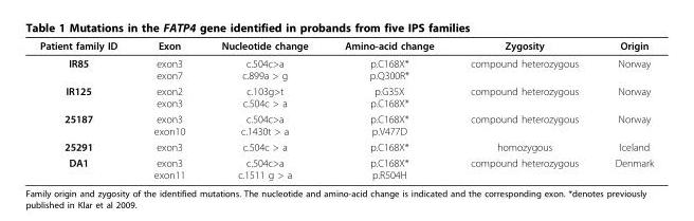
<table><thead><tr><td>Patient family ID</td><td>Exon</td><td>Nucleotide change</td><td>Amino-acid change</td><td>Zygosity</td><td>Origin</td></tr></thead><tbody><tr><td>IR85</td><td>exon3 exon7</td><td>c.504c&gt;a c.899a &gt; g</td><td>p.C168X* p.Q300R*</td><td>compound heterozygous</td><td>Norway</td></tr><tr><td>IR125</td><td>exon2 exon3</td><td>c.103g&gt;t c.504c &gt; a</td><td>p.G35X p.C168X*</td><td>compound heterozygous</td><td>Norway</td></tr><tr><td>25187</td><td>exon3 exon10</td><td>c.504c&gt;a c.1430t &gt; a</td><td>p.C168X* p.V477D</td><td>compound heterozygous</td><td>Norway</td></tr><tr><td>25291</td><td>exon3</td><td>c.504c &gt; a</td><td>p.C168X*</td><td>homozygous</td><td>Iceland</td></tr><tr><td>DA1</td><td>exon3 exon11</td><td>c.504c&gt;a c.1511 g &gt; a</td><td>p.C168X* p.R504H</td><td>compound heterozygous</td><td>Denmark</td></tr></tbody></table>